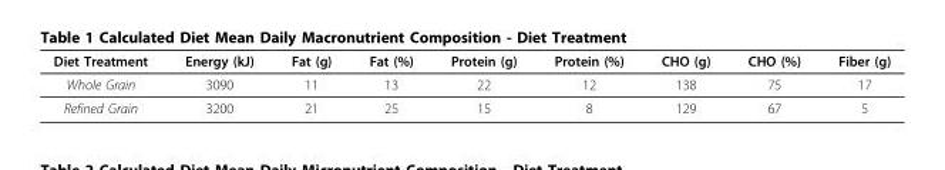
<table><thead><tr><td>Diet Treatment</td><td>Energy (kJ)</td><td>Fat (g)</td><td>Fat (%)</td><td>Protein (g)</td><td>Protein (%)</td><td>CHO (g)</td><td>CHO (%)</td><td>Fiber (g)</td></tr></thead><tbody><tr><td>Whole Grain</td><td>3090</td><td>11</td><td>13</td><td>22</td><td>12</td><td>138</td><td>75</td><td>17</td></tr><tr><td>Refined Grain</td><td>3200</td><td>21</td><td>25</td><td>15</td><td>8</td><td>129</td><td>67</td><td>5</td></tr></tbody></table>